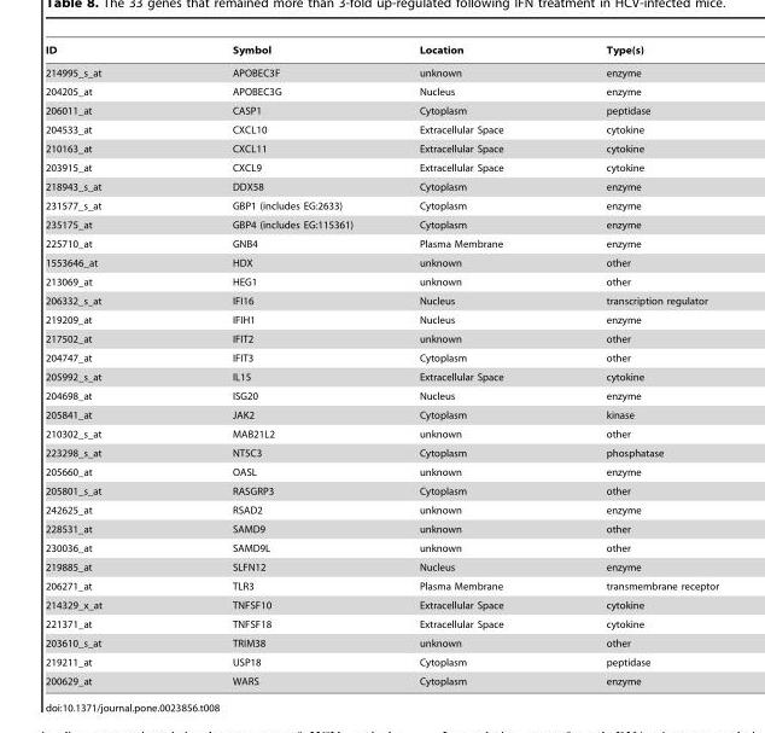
<table><thead><tr><td>ID</td><td>Symbol</td><td>Location</td><td>Type(s)</td></tr></thead><tbody><tr><td>214995_s_at</td><td>APOBEC3F</td><td>unknown</td><td>enzyme</td></tr><tr><td>204205_at</td><td>APOBEC3G</td><td>Nucleus</td><td>enzyme</td></tr><tr><td>206011_at</td><td>CASP1</td><td>Cytoplasm</td><td>peptidase</td></tr><tr><td>204533_at</td><td>CXCL10</td><td>Extracellular Space</td><td>cytokine</td></tr><tr><td>210163_at</td><td>CXCL11</td><td>Extracellular Space</td><td>cytokine</td></tr><tr><td>203915_at</td><td>CXCL9</td><td>Extracellular Space</td><td>cytokine</td></tr><tr><td>218943_s_at</td><td>DDX58</td><td>Cytoplasm</td><td>enzyme</td></tr><tr><td>231577_s_at</td><td>GBP1 (includes EG:2633)</td><td>Cytoplasm</td><td>enzyme</td></tr><tr><td>235175_at</td><td>GBP4 (includes EG:115361)</td><td>Cytoplasm</td><td>enzyme</td></tr><tr><td>225710_at</td><td>GNB4</td><td>Plasma Membrane</td><td>enzyme</td></tr><tr><td>1553646_at</td><td>HDX</td><td>unknown</td><td>other</td></tr><tr><td>213069_at</td><td>HEG1</td><td>unknown</td><td>other</td></tr><tr><td>206332_s_at</td><td>IFI16</td><td>Nucleus</td><td>transcription regulator</td></tr><tr><td>219209_at</td><td>IFIH1</td><td>Nucleus</td><td>enzyme</td></tr><tr><td>217502_at</td><td>IFIT2</td><td>unknown</td><td>other</td></tr><tr><td>204747_at</td><td>IFIT3</td><td>Cytoplasm</td><td>other</td></tr><tr><td>205992_s_at</td><td>IL15</td><td>Extracellular Space</td><td>cytokine</td></tr><tr><td>204698_at</td><td>ISG20</td><td>Nucleus</td><td>enzyme</td></tr><tr><td>205841_at</td><td>JAK2</td><td>Cytoplasm</td><td>kinase</td></tr><tr><td>210302_s_at</td><td>MAB21L2</td><td>unknown</td><td>other</td></tr><tr><td>223298_s_at</td><td>NT5C3</td><td>Cytoplasm</td><td>phosphatase</td></tr><tr><td>205660_at</td><td>OASL</td><td>unknown</td><td>enzyme</td></tr><tr><td>205801_s_at</td><td>RASGRP3</td><td>Cytoplasm</td><td>other</td></tr><tr><td>242625_at</td><td>RSAD2</td><td>unknown</td><td>enzyme</td></tr><tr><td>228531_at</td><td>SAMD9</td><td>unknown</td><td>other</td></tr><tr><td>230036_at</td><td>SAMD9L</td><td>unknown</td><td>other</td></tr><tr><td>219885_at</td><td>SLFN12</td><td>Nucleus</td><td>enzyme</td></tr><tr><td>206271_at</td><td>TLR3</td><td>Plasma Membrane</td><td>transmembrane receptor</td></tr><tr><td>214329_x_at</td><td>TNFSF10</td><td>Extracellular Space</td><td>cytokine</td></tr><tr><td>221371_at</td><td>TNFSF18</td><td>Extracellular Space</td><td>cytokine</td></tr><tr><td>203610_s_at</td><td>TRIM38</td><td>unknown</td><td>other</td></tr><tr><td>219211_at</td><td>USP18</td><td>Cytoplasm</td><td>peptidase</td></tr><tr><td>200629_at</td><td>WARS</td><td>Cytoplasm</td><td>enzyme</td></tr></tbody></table>